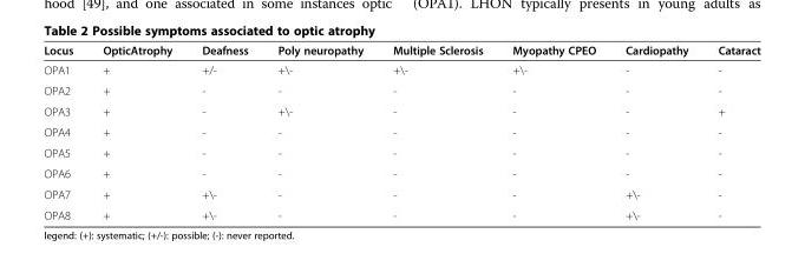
<table><thead><tr><td>Locus</td><td>OpticAtrophy</td><td>Deafness</td><td>Poly neuropathy</td><td>Multiple Sclerosis</td><td>Myopathy CPEO</td><td>Cardiopathy</td><td>Cataract</td></tr></thead><tbody><tr><td>OPA1</td><td>+</td><td>+/-</td><td>+\-</td><td>+\-</td><td>+\-</td><td>-</td><td>-</td></tr><tr><td>OPA2</td><td>+</td><td>-</td><td>-</td><td>-</td><td>-</td><td>-</td><td>-</td></tr><tr><td>OPA3</td><td>+</td><td>-</td><td>+\-</td><td>-</td><td>-</td><td>-</td><td>+</td></tr><tr><td>OPA4</td><td>+</td><td>-</td><td>-</td><td>-</td><td>-</td><td>-</td><td>-</td></tr><tr><td>OPA5</td><td>+</td><td>-</td><td>-</td><td>-</td><td>-</td><td>-</td><td>-</td></tr><tr><td>OPA6</td><td>+</td><td>-</td><td>-</td><td>-</td><td>-</td><td>-</td><td>-</td></tr><tr><td>OPA7</td><td>+</td><td>+\-</td><td>-</td><td>-</td><td>-</td><td>+\-</td><td>-</td></tr><tr><td>OPA8</td><td>+</td><td>+\-</td><td>-</td><td>-</td><td>-</td><td>+\-</td><td>-</td></tr></tbody></table>